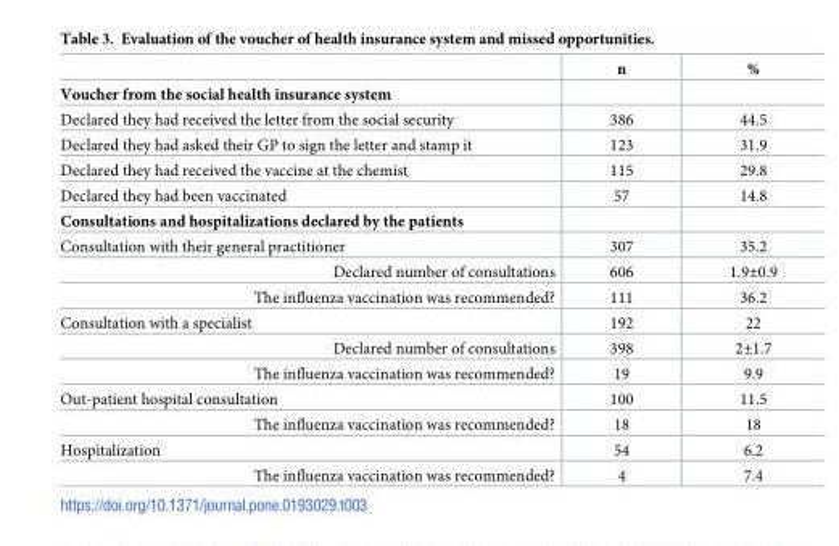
<table><thead><tr><td></td><td>n</td><td>%</td></tr></thead><tbody><tr><td colspan="3">Voucher from the social health insurance system</td></tr><tr><td>Declared they had received the letter from the social security</td><td>386</td><td>44.5</td></tr><tr><td>Declared they had asked their GP to sign the letter and stamp it</td><td>123</td><td>31.9</td></tr><tr><td>Declared they had received the vaccine at the chemist</td><td>115</td><td>29.8</td></tr><tr><td>Declared they had been vaccinated</td><td>57</td><td>14.8</td></tr><tr><td colspan="3">Consultations and hospitalizations declared by the patients</td></tr><tr><td>Consultation with their general practitioner</td><td>307</td><td>35.2</td></tr><tr><td>Declared number of consultations</td><td>606</td><td>1.9±0.9</td></tr><tr><td>The influenza vaccination was recommended?</td><td>111</td><td>36.2</td></tr><tr><td>Consultation with a specialist</td><td>192</td><td>22</td></tr><tr><td>Declared number of consultations</td><td>398</td><td>2±1.7</td></tr><tr><td>The influenza vaccination was recommended?</td><td>19</td><td>9.9</td></tr><tr><td>Out-patient hospital consultation</td><td>100</td><td>11.5</td></tr><tr><td>The influenza vaccination was recommended?</td><td>18</td><td>18</td></tr><tr><td>Hospitalization</td><td>54</td><td>6.2</td></tr><tr><td>The influenza vaccination was recommended?</td><td>4</td><td>7.4</td></tr></tbody></table>